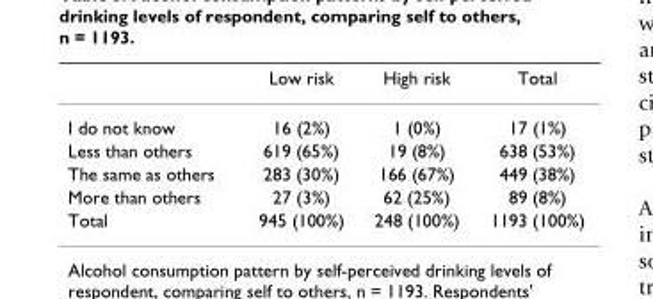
<table><thead><tr><td></td><td>Low risk</td><td>High risk</td><td>Total</td></tr></thead><tbody><tr><td>I do not know</td><td>16 (2%)</td><td>1 (0%)</td><td>17 (1%)</td></tr><tr><td>Less than others</td><td>619 (65%)</td><td>19 (8%)</td><td>638 (53%)</td></tr><tr><td>The same as others</td><td>283 (30%)</td><td>166 (67%)</td><td>449 (38%)</td></tr><tr><td>More than others</td><td>27 (3%)</td><td>62 (25%)</td><td>89 (8%)</td></tr><tr><td>Total</td><td>945 (100%)</td><td>248 (100%)</td><td>1193 (100%)</td></tr></tbody></table>